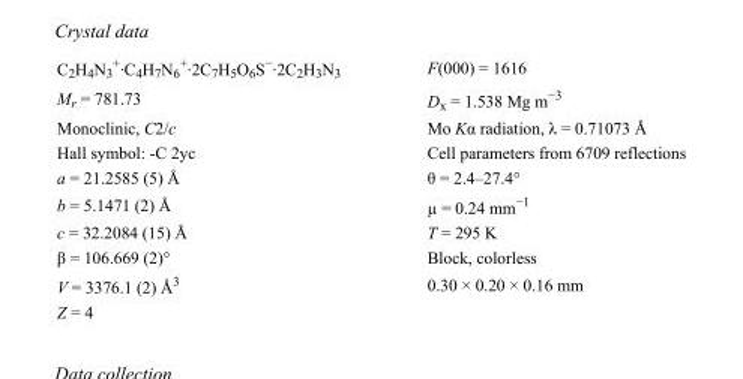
<table><tbody><tr><td>C<sub>2</sub>H<sub>4</sub>N<sub>3</sub> <sup>+</sup>·C<sub>4</sub>H<sub>7</sub>N<sub>6</sub> <sup>+</sup>·2C<sub>7</sub>H<sub>5</sub>O<sub>6</sub>S<sup>−</sup>·2C<sub>2</sub>H<sub>3</sub>N<sub>3</sub></td><td>F(000) = 1616</td></tr><tr><td>M<sub>r</sub> = 781.73</td><td>D<sub>x</sub> = 1.538 Mg m<sup>−3</sup></td></tr><tr><td>Monoclinic, C2/c</td><td>Mo Kα radiation, λ = 0.71073 Å</td></tr><tr><td>Hall symbol: -C 2yc</td><td>Cell parameters from 6709 reflections</td></tr><tr><td>a = 21.2585 (5) Å</td><td>θ = 2.4–27.4°</td></tr><tr><td>b = 5.1471 (2) Å</td><td>µ = 0.24 mm<sup>−1</sup></td></tr><tr><td>c = 32.2084 (15) Å</td><td>T = 295 K</td></tr><tr><td>β = 106.669 (2)°</td><td>Block, colorless</td></tr><tr><td>V = 3376.1 (2) Å<sup>3</sup></td><td>0.30 × 0.20 × 0.16 mm</td></tr><tr><td>Z = 4</td><td></td></tr></tbody></table>